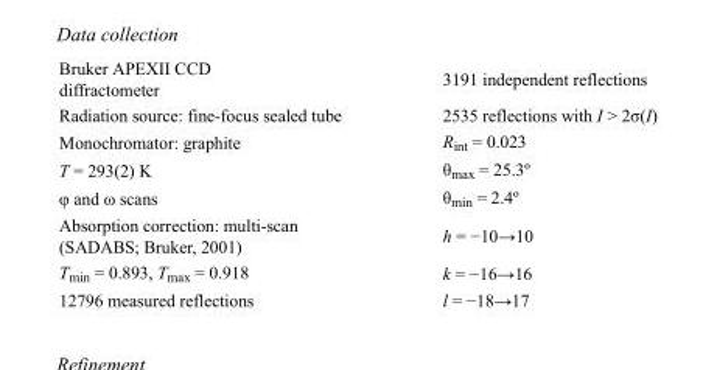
<table><tbody><tr><td>Bruker APEXII CCD diffractometer</td><td>3191 independent reflections</td></tr><tr><td>Radiation source: fine-focus sealed tube</td><td>2535 reflections with I &gt; 2σ(I)</td></tr><tr><td>Monochromator: graphite</td><td>Rint = 0.023</td></tr><tr><td>T = 293(2) K</td><td>θmax = 25.3º</td></tr><tr><td>φ and ω scans</td><td>θmin = 2.4º</td></tr><tr><td>Absorption correction: multi-scan (SADABS; Bruker, 2001)</td><td>h = −10→10</td></tr><tr><td>Tmin = 0.893, Tmax = 0.918</td><td>k = −16→16</td></tr><tr><td>12796 measured reflections</td><td>l = −18→17</td></tr></tbody></table>